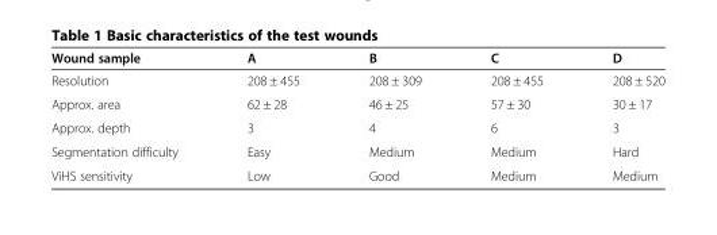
<table><thead><tr><td>Wound sample</td><td>A</td><td>B</td><td>C</td><td>D</td></tr></thead><tbody><tr><td>Resolution</td><td>208 ± 455</td><td>208 ± 309</td><td>208 ± 455</td><td>208 ± 520</td></tr><tr><td>Approx. area</td><td>62 ± 28</td><td>46 ± 25</td><td>57 ± 30</td><td>30 ± 17</td></tr><tr><td>Approx. depth</td><td>3</td><td>4</td><td>6</td><td>3</td></tr><tr><td>Segmentation difficulty</td><td>Easy</td><td>Medium</td><td>Medium</td><td>Hard</td></tr><tr><td>ViHS sensitivity</td><td>Low</td><td>Good</td><td>Medium</td><td>Medium</td></tr></tbody></table>